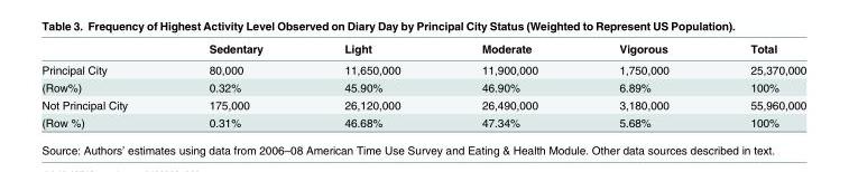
<table><thead><tr><td></td><td>Sedentary</td><td>Light</td><td>Moderate</td><td>Vigorous</td><td>Total</td></tr></thead><tbody><tr><td>Principal City</td><td>80,000</td><td>11,650,000</td><td>11,900,000</td><td>1,750,000</td><td>25,370,000</td></tr><tr><td>(Row%)</td><td>0.32%</td><td>45.90%</td><td>46.90%</td><td>6.89%</td><td>100%</td></tr><tr><td>Not Principal City</td><td>175,000</td><td>26,120,000</td><td>26,490,000</td><td>3,180,000</td><td>55,960,000</td></tr><tr><td>(Row %)</td><td>0.31%</td><td>46.68%</td><td>47.34%</td><td>5.68%</td><td>100%</td></tr></tbody></table>